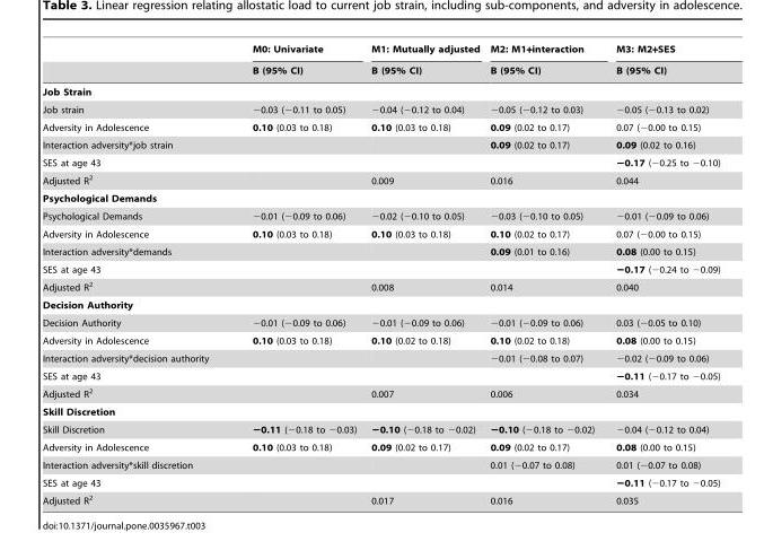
<table><thead><tr><td rowspan="2"></td><td rowspan="2">M0: Univariate B (95% CI)</td><td rowspan="2">M1: Mutually adjusted B (95% CI)</td><td rowspan="2">M2: M1+interaction B (95% CI)</td><td rowspan="2">M3: M2+SES B (95% CI)</td></tr><tr></tr></thead><tbody><tr><td colspan="5">Job Strain</td></tr><tr><td>Job strain</td><td>−0.03 (−0.11 to 0.05)</td><td>−0.04 (−0.12 to 0.04)</td><td>−0.05 (−0.12 to 0.03)</td><td>−0.05 (−0.13 to 0.02)</td></tr><tr><td>Adversity in Adolescence</td><td>0.10 (0.03 to 0.18)</td><td>0.10 (0.03 to 0.18)</td><td>0.09 (0.02 to 0.17)</td><td>0.07 (−0.00 to 0.15)</td></tr><tr><td>Interaction adversity*job strain</td><td></td><td></td><td>0.09 (0.02 to 0.17)</td><td>0.09 (0.02 to 0.16)</td></tr><tr><td>SES at age 43</td><td></td><td></td><td></td><td>−0.17 (−0.25 to −0.10)</td></tr><tr><td>Adjusted R<sup>2</sup></td><td></td><td>0.009</td><td>0.016</td><td>0.044</td></tr><tr><td colspan="5">Psychological Demands</td></tr><tr><td>Psychological Demands</td><td>−0.01 (−0.09 to 0.06)</td><td>−0.02 (−0.10 to 0.05)</td><td>−0.03 (−0.10 to 0.05)</td><td>−0.01 (−0.09 to 0.06)</td></tr><tr><td>Adversity in Adolescence</td><td>0.10 (0.03 to 0.18)</td><td>0.10 (0.03 to 0.18)</td><td>0.10 (0.02 to 0.17)</td><td>0.07 (−0.00 to 0.15)</td></tr><tr><td>Interaction adversity*demands</td><td></td><td></td><td>0.09 (0.01 to 0.16)</td><td>0.08 (0.00 to 0.15)</td></tr><tr><td>SES at age 43</td><td></td><td></td><td></td><td>−0.17 (−0.24 to −0.09)</td></tr><tr><td>Adjusted R<sup>2</sup></td><td></td><td>0.008</td><td>0.014</td><td>0.040</td></tr><tr><td colspan="5">Decision Authority</td></tr><tr><td>Decision Authority</td><td>−0.01 (−0.09 to 0.06)</td><td>−0.01 (−0.09 to 0.06)</td><td>−0.01 (−0.09 to 0.06)</td><td>0.03 (−0.05 to 0.10)</td></tr><tr><td>Adversity in Adolescence</td><td>0.10 (0.03 to 0.18)</td><td>0.10 (0.02 to 0.18)</td><td>0.10 (0.02 to 0.18)</td><td>0.08 (0.00 to 0.15)</td></tr><tr><td>Interaction adversity*decision authority</td><td></td><td></td><td>−0.01 (−0.08 to 0.07)</td><td>−0.02 (−0.09 to 0.06)</td></tr><tr><td>SES at age 43</td><td></td><td></td><td></td><td>−0.11 (−0.17 to −0.05)</td></tr><tr><td>Adjusted R<sup>2</sup></td><td></td><td>0.007</td><td>0.006</td><td>0.034</td></tr><tr><td colspan="5">Skill Discretion</td></tr><tr><td>Skill Discretion</td><td>−0.11 (−0.18 to −0.03)</td><td>−0.10 (−0.18 to −0.02)</td><td>−0.10 (−0.18 to −0.02)</td><td>−0.04 (−0.12 to 0.04)</td></tr><tr><td>Adversity in Adolescence</td><td>0.10 (0.03 to 0.18)</td><td>0.09 (0.02 to 0.17)</td><td>0.09 (0.02 to 0.17)</td><td>0.08 (0.00 to 0.15)</td></tr><tr><td>Interaction adversity*skill discretion</td><td></td><td></td><td>0.01 (−0.07 to 0.08)</td><td>0.01 (−0.07 to 0.08)</td></tr><tr><td>SES at age 43</td><td></td><td></td><td></td><td>−0.11 (−0.17 to −0.05)</td></tr><tr><td>Adjusted R<sup>2</sup></td><td></td><td>0.017</td><td>0.016</td><td>0.035</td></tr></tbody></table>